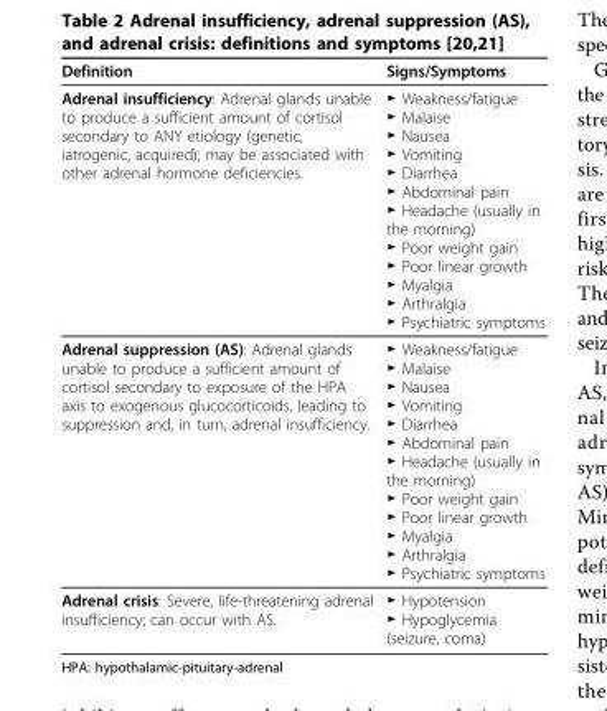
<table><thead><tr><td>Definition</td><td>Signs/Symptoms</td></tr></thead><tbody><tr><td>Adrenal insufficiency: Adrenal glands unable to produce a sufficient amount of cortisol secondary to ANY etiology (genetic, iatrogenic, acquired); may be associated with other adrenal hormone deficiencies.</td><td>► Weakness/fatigue ► Malaise ► Nausea ► Vomiting ► Diarrhea ► Abdominal pain ► Headache (usually in the morning) ► Poor weight gain ► Poor linear growth ► Myalgia ► Arthralgia ► Psychiatric symptoms</td></tr><tr><td>Adrenal suppression (AS): Adrenal glands unable to produce a sufficient amount of cortisol secondary to exposure of the HPA axis to exogenous glucocorticoids, leading to suppression and, in turn, adrenal insufficiency.</td><td>► Weakness/fatigue ► Malaise ► Nausea ► Vomiting ► Diarrhea ► Abdominal pain ► Headache (usually in the morning) ► Poor weight gain ► Poor linear growth ► Myalgia ► Arthralgia ► Psychiatric symptoms</td></tr><tr><td>Adrenal crisis: Severe, life-threatening adrenal insufficiency; can occur with AS.</td><td>► Hypotension ► Hypoglycemia (seizure, coma)</td></tr></tbody></table>